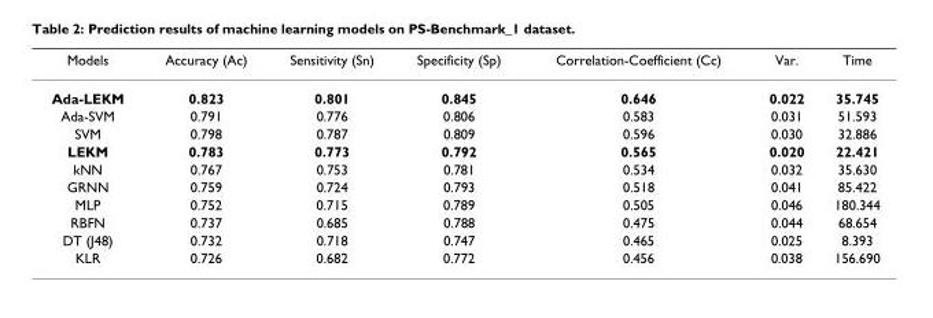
<table><thead><tr><td>Models</td><td>Accuracy (Ac)</td><td>Sensitivity (Sn)</td><td>Specificity (Sp)</td><td>Correlation-Coefficient (Cc)</td><td>Var.</td><td>Time</td></tr></thead><tbody><tr><td>Ada-LEKM</td><td>0.823</td><td>0.801</td><td>0.845</td><td>0.646</td><td>0.022</td><td>35.745</td></tr><tr><td>Ada-SVM</td><td>0.791</td><td>0.776</td><td>0.806</td><td>0.583</td><td>0.031</td><td>51.593</td></tr><tr><td>SVM</td><td>0.798</td><td>0.787</td><td>0.809</td><td>0.596</td><td>0.030</td><td>32.886</td></tr><tr><td>LEKM</td><td>0.783</td><td>0.773</td><td>0.792</td><td>0.565</td><td>0.020</td><td>22.421</td></tr><tr><td>kNN</td><td>0.767</td><td>0.753</td><td>0.781</td><td>0.534</td><td>0.032</td><td>35.630</td></tr><tr><td>GRNN</td><td>0.759</td><td>0.724</td><td>0.793</td><td>0.518</td><td>0.041</td><td>85.422</td></tr><tr><td>MLP</td><td>0.752</td><td>0.715</td><td>0.789</td><td>0.505</td><td>0.046</td><td>180.344</td></tr><tr><td>RBFN</td><td>0.737</td><td>0.685</td><td>0.788</td><td>0.475</td><td>0.044</td><td>68.654</td></tr><tr><td>DT (J48)</td><td>0.732</td><td>0.718</td><td>0.747</td><td>0.465</td><td>0.025</td><td>8.393</td></tr><tr><td>KLR</td><td>0.726</td><td>0.682</td><td>0.772</td><td>0.456</td><td>0.038</td><td>156.690</td></tr></tbody></table>